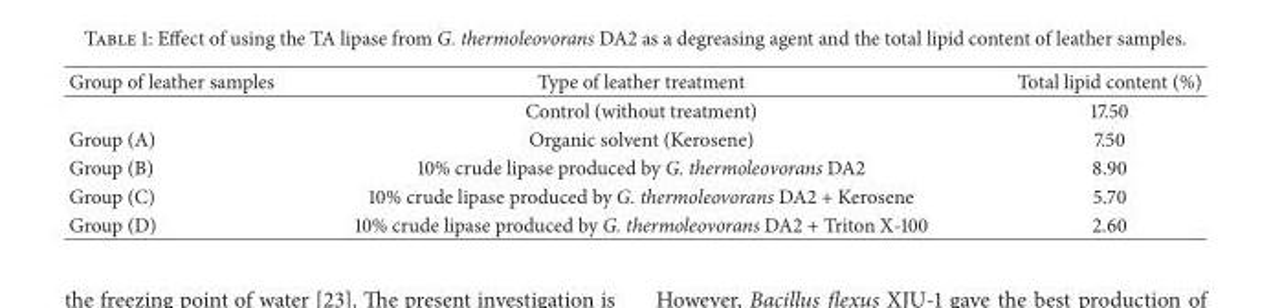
<table><thead><tr><td>Group of leather samples</td><td>Type of leather treatment</td><td>Total lipid content (%)</td></tr></thead><tbody><tr><td></td><td>Control (without treatment)</td><td>17.50</td></tr><tr><td>Group (A)</td><td>Organic solvent (Kerosene)</td><td>7.50</td></tr><tr><td>Group (B)</td><td>10% crude lipase produced by G. thermoleovorans DA2</td><td>8.90</td></tr><tr><td>Group (C)</td><td>10% crude lipase produced by G. thermoleovorans DA2 + Kerosene</td><td>5.70</td></tr><tr><td>Group (D)</td><td>10% crude lipase produced by G. thermoleovorans DA2 + Triton X-100</td><td>2.60</td></tr></tbody></table>